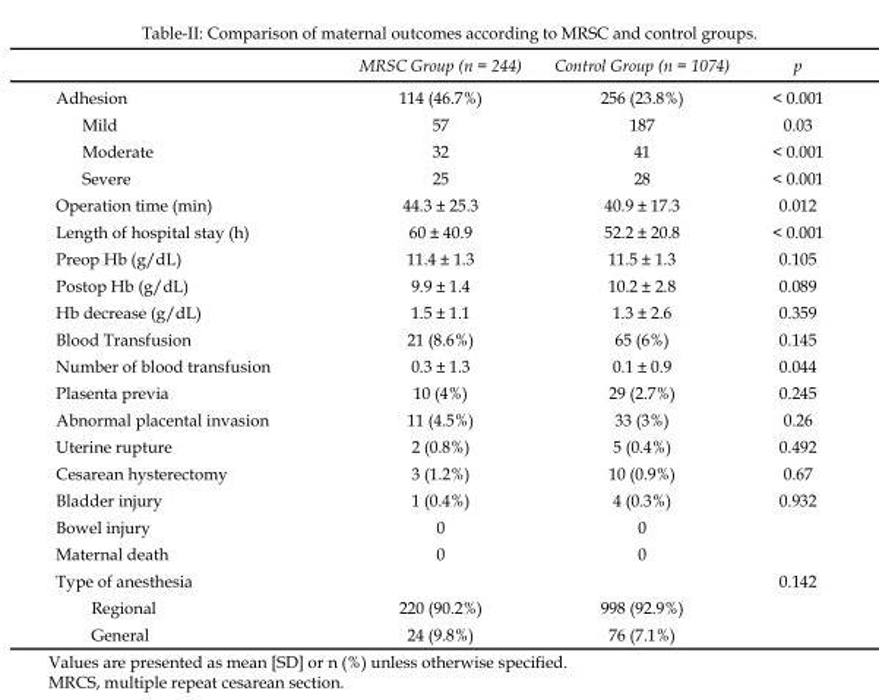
<table><thead><tr><td></td><td>MRSC Group (n = 244)</td><td>Control Group (n = 1074)</td><td>p</td></tr></thead><tbody><tr><td>Adhesion</td><td>114 (46.7%)</td><td>256 (23.8%)</td><td>&lt; 0.001</td></tr><tr><td>Mild</td><td>57</td><td>187</td><td>0.03</td></tr><tr><td>Moderate</td><td>32</td><td>41</td><td>&lt; 0.001</td></tr><tr><td>Severe</td><td>25</td><td>28</td><td>&lt; 0.001</td></tr><tr><td>Operation time (min)</td><td>44.3 ± 25.3</td><td>40.9 ± 17.3</td><td>0.012</td></tr><tr><td>Length of hospital stay (h)</td><td>60 ± 40.9</td><td>52.2 ± 20.8</td><td>&lt; 0.001</td></tr><tr><td>Preop Hb (g/dL)</td><td>11.4 ± 1.3</td><td>11.5 ± 1.3</td><td>0.105</td></tr><tr><td>Postop Hb (g/dL)</td><td>9.9 ± 1.4</td><td>10.2 ± 2.8</td><td>0.089</td></tr><tr><td>Hb decrease (g/dL)</td><td>1.5 ± 1.1</td><td>1.3 ± 2.6</td><td>0.359</td></tr><tr><td>Blood Transfusion</td><td>21 (8.6%)</td><td>65 (6%)</td><td>0.145</td></tr><tr><td>Number of blood transfusion</td><td>0.3 ± 1.3</td><td>0.1 ± 0.9</td><td>0.044</td></tr><tr><td>Plasenta previa</td><td>10 (4%)</td><td>29 (2.7%)</td><td>0.245</td></tr><tr><td>Abnormal placental invasion</td><td>11 (4.5%)</td><td>33 (3%)</td><td>0.26</td></tr><tr><td>Uterine rupture</td><td>2 (0.8%)</td><td>5 (0.4%)</td><td>0.492</td></tr><tr><td>Cesarean hysterectomy</td><td>3 (1.2%)</td><td>10 (0.9%)</td><td>0.67</td></tr><tr><td>Bladder injury</td><td>1 (0.4%)</td><td>4 (0.3%)</td><td>0.932</td></tr><tr><td>Bowel injury</td><td>0</td><td>0</td><td></td></tr><tr><td>Maternal death</td><td>0</td><td>0</td><td></td></tr><tr><td>Type of anesthesia</td><td></td><td></td><td>0.142</td></tr><tr><td>Regional</td><td>220 (90.2%)</td><td>998 (92.9%)</td><td></td></tr><tr><td>General</td><td>24 (9.8%)</td><td>76 (7.1%)</td><td></td></tr></tbody></table>